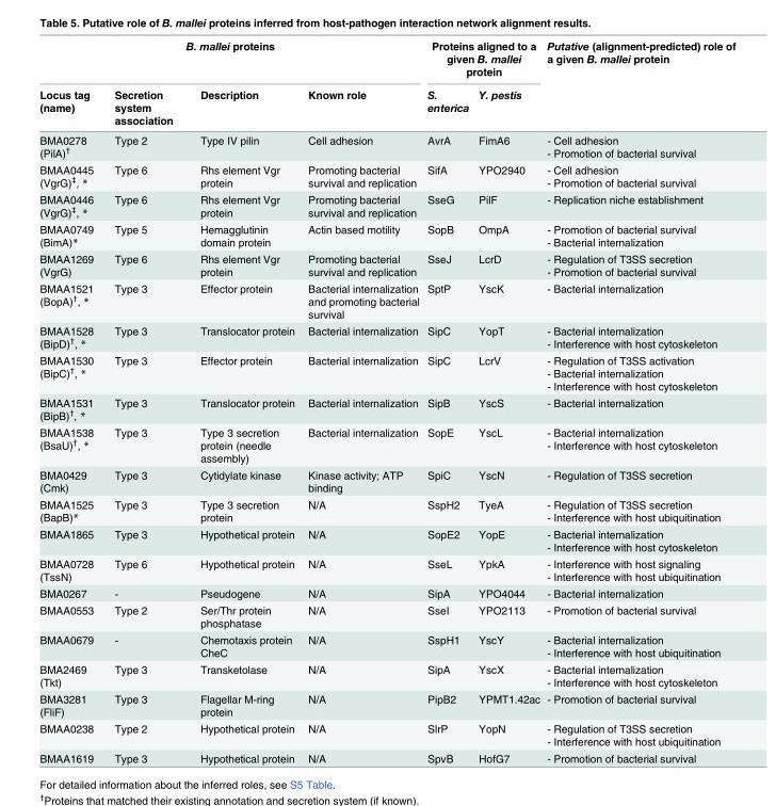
<table><thead><tr><td colspan="4">B. mallei proteins</td><td colspan="2">Proteins aligned to a given B. mallei protein</td><td rowspan="2">Putative (alignment-predicted) role of a given B. mallei protein</td></tr><tr><td>Locus tag (name)</td><td>Secretion system association</td><td>Description</td><td>Known role</td><td>S. enterica</td><td>Y. pestis</td></tr></thead><tbody><tr><td>BMA0278 (PilA)<sup>†</sup></td><td>Type 2</td><td>Type IV pilin</td><td>Cell adhesion</td><td>AvrA</td><td>FimA6</td><td>- Cell adhesion - Promotion of bacterial survival</td></tr><tr><td>BMAA0445 (VgrG)<sup>‡</sup>, *</td><td>Type 6</td><td>Rhs element Vgr protein</td><td>Promoting bacterial survival and replication</td><td>SifA</td><td>YPO2940</td><td>- Cell adhesion - Promotion of bacterial survival</td></tr><tr><td>BMAA0446 (VgrG)<sup>‡</sup>, *</td><td>Type 6</td><td>Rhs element Vgr protein</td><td>Promoting bacterial survival and replication</td><td>SseG</td><td>PilF</td><td>- Replication niche establishment</td></tr><tr><td>BMAA0749 (BimA)*</td><td>Type 5</td><td>Hemagglutinin domain protein</td><td>Actin based motility</td><td>SopB</td><td>OmpA</td><td>- Promotion of bacterial survival - Bacterial internalization</td></tr><tr><td>BMAA1269 (VgrG)</td><td>Type 6</td><td>Rhs element Vgr protein</td><td>Promoting bacterial survival and replication</td><td>SseJ</td><td>LcrD</td><td>- Regulation of T3SS secretion - Promotion of bacterial survival</td></tr><tr><td>BMAA1521 (BopA)<sup>†</sup>, *</td><td>Type 3</td><td>Effector protein</td><td>Bacterial internalization and promoting bacterial survival</td><td>SptP</td><td>YscK</td><td>- Bacterial internalization</td></tr><tr><td>BMAA1528 (BipD)<sup>†</sup>, *</td><td>Type 3</td><td>Translocator protein</td><td>Bacterial internalization</td><td>SipC</td><td>YopT</td><td>- Bacterial internalization - Interference with host cytoskeleton</td></tr><tr><td>BMAA1530 (BipC)<sup>†</sup>, *</td><td>Type 3</td><td>Effector protein</td><td>Bacterial internalization</td><td>SipC</td><td>LcrV</td><td>- Regulation of T3SS activation - Bacterial internalization - Interference with host cytoskeleton</td></tr><tr><td>BMAA1531 (BipB)<sup>†</sup>, *</td><td>Type 3</td><td>Translocator protein</td><td>Bacterial internalization</td><td>SipB</td><td>YscS</td><td>- Bacterial internalization</td></tr><tr><td>BMAA1538 (BsaU)<sup>†</sup>, *</td><td>Type 3</td><td>Type 3 secretion protein (needle assembly)</td><td>Bacterial internalization</td><td>SopE</td><td>YscL</td><td>- Bacterial internalization - Interference with host cytoskeleton</td></tr><tr><td>BMA0429 (Cmk)</td><td>Type 3</td><td>Cytidylate kinase</td><td>Kinase activity; ATP binding</td><td>SpiC</td><td>YscN</td><td>- Regulation of T3SS secretion</td></tr><tr><td>BMAA1525 (BapB)*</td><td>Type 3</td><td>Type 3 secretion protein</td><td>N/A</td><td>SspH2</td><td>TyeA</td><td>- Regulation of T3SS secretion - Interference with host ubiquitination</td></tr><tr><td>BMAA1865</td><td>Type 3</td><td>Hypothetical protein</td><td>N/A</td><td>SopE2</td><td>YopE</td><td>- Bacterial internalization - Interference with host cytoskeleton</td></tr><tr><td>BMAA0728 (TssN)</td><td>Type 6</td><td>Hypothetical protein</td><td>N/A</td><td>SseL</td><td>YpkA</td><td>- Interference with host signaling - Interference with host ubiquitination</td></tr><tr><td>BMA0267</td><td>-</td><td>Pseudogene</td><td>N/A</td><td>SipA</td><td>YPO4044</td><td>- Bacterial internalization</td></tr><tr><td>BMAA0553</td><td>Type 2</td><td>Ser/Thr protein phosphatase</td><td>N/A</td><td>SseI</td><td>YPO2113</td><td>- Promotion of bacterial survival</td></tr><tr><td>BMAA0679</td><td>-</td><td>Chemotaxis protein CheC</td><td>N/A</td><td>SspH1</td><td>YscY</td><td>- Bacterial internalization - Interference with host ubiquitination</td></tr><tr><td>BMA2469 (Tkt)</td><td>Type 3</td><td>Transketolase</td><td>N/A</td><td>SipA</td><td>YscX</td><td>- Bacterial internalization - Interference with host cytoskeleton</td></tr><tr><td>BMA3281 (FliF)</td><td>Type 3</td><td>Flagellar M-ring protein</td><td>N/A</td><td>PipB2</td><td>YPMT1.42ac</td><td>- Promotion of bacterial survival</td></tr><tr><td>BMAA0238</td><td>Type 2</td><td>Hypothetical protein</td><td>N/A</td><td>SlrP</td><td>YopN</td><td>- Regulation of T3SS secretion - Interference with host ubiquitination</td></tr><tr><td>BMAA1619</td><td>Type 3</td><td>Hypothetical protein</td><td>N/A</td><td>SpvB</td><td>HofG7</td><td>- Promotion of bacterial survival</td></tr></tbody></table>